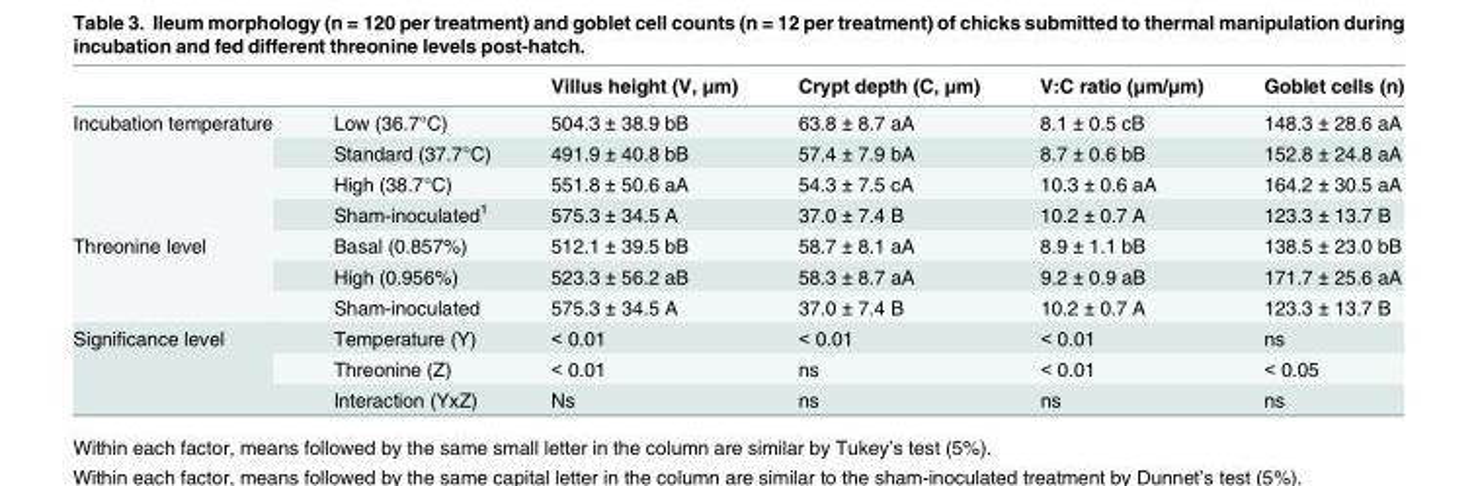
<table><thead><tr><td></td><td></td><td>Villus height (V, μm)</td><td>Crypt depth (C, μm)</td><td>V:C ratio (μm/μm)</td><td>Goblet cells (n)</td></tr></thead><tbody><tr><td rowspan="4">Incubation temperature</td><td>Low (36.7°C)</td><td>504.3 ± 38.9 bB</td><td>63.8 ± 8.7 aA</td><td>8.1 ± 0.5 cB</td><td>148.3 ± 28.6 aA</td></tr><tr><td>Standard (37.7°C)</td><td>491.9 ± 40.8 bB</td><td>57.4 ± 7.9 bA</td><td>8.7 ± 0.6 bB</td><td>152.8 ± 24.8 aA</td></tr><tr><td>High (38.7°C)</td><td>551.8 ± 50.6 aA</td><td>54.3 ± 7.5 cA</td><td>10.3 ± 0.6 aA</td><td>164.2 ± 30.5 aA</td></tr><tr><td>Sham-inoculated<sup>1</sup></td><td>575.3 ± 34.5 A</td><td>37.0 ± 7.4 B</td><td>10.2 ± 0.7 A</td><td>123.3 ± 13.7 B</td></tr><tr><td rowspan="3">Threonine level</td><td>Basal (0.857%)</td><td>512.1 ± 39.5 bB</td><td>58.7 ± 8.1 aA</td><td>8.9 ± 1.1 bB</td><td>138.5 ± 23.0 bB</td></tr><tr><td>High (0.956%)</td><td>523.3 ± 56.2 aB</td><td>58.3 ± 8.7 aA</td><td>9.2 ± 0.9 aB</td><td>171.7 ± 25.6 aA</td></tr><tr><td>Sham-inoculated</td><td>575.3 ± 34.5 A</td><td>37.0 ± 7.4 B</td><td>10.2 ± 0.7 A</td><td>123.3 ± 13.7 B</td></tr><tr><td rowspan="3">Significance level</td><td>Temperature (Y)</td><td>&lt; 0.01</td><td>&lt; 0.01</td><td>&lt; 0.01</td><td>ns</td></tr><tr><td>Threonine (Z)</td><td>&lt; 0.01</td><td>ns</td><td>&lt; 0.01</td><td>&lt; 0.05</td></tr><tr><td>Interaction (YxZ)</td><td>Ns</td><td>ns</td><td>ns</td><td>ns</td></tr></tbody></table>